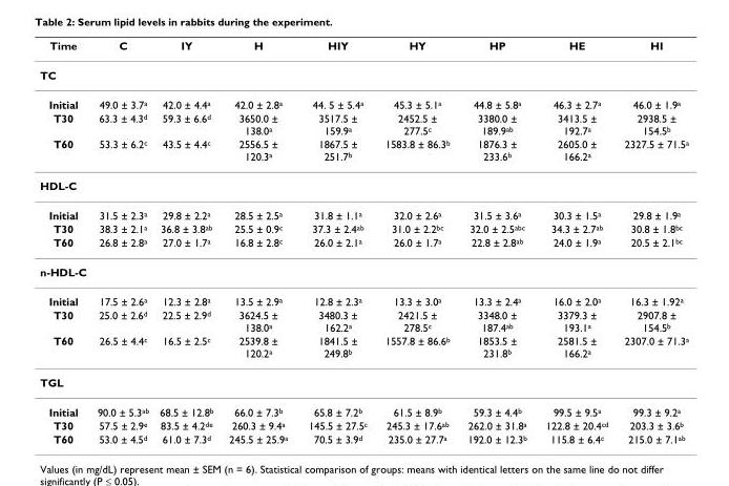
<table><thead><tr><td>Time</td><td>C</td><td>IY</td><td>H</td><td>HIY</td><td>HY</td><td>HP</td><td>HE</td><td>HI</td></tr></thead><tbody><tr><td colspan="9">TC</td></tr><tr><td>Initial</td><td>49.0 ± 3.7<sup>a</sup></td><td>42.0 ± 4.4<sup>a</sup></td><td>42.0 ± 2.8<sup>a</sup></td><td>44. 5 ± 5.4<sup>a</sup></td><td>45.3 ± 5.1<sup>a</sup></td><td>44.8 ± 5.8<sup>a</sup></td><td>46.3 ± 2.7<sup>a</sup></td><td>46.0 ± 1.9<sup>a</sup></td></tr><tr><td>T30</td><td>63.3 ± 4.3<sup>d</sup></td><td>59.3 ± 6.6<sup>d</sup></td><td>3650.0 ± 138.0<sup>a</sup></td><td>3517.5 ± 159.9<sup>a</sup></td><td>2452.5 ± 277.5<sup>c</sup></td><td>3380.0 ± 189.9<sup>ab</sup></td><td>3413.5 ± 192.7<sup>a</sup></td><td>2938.5 ± 154.5<sup>b</sup></td></tr><tr><td>T60</td><td>53.3 ± 6.2<sup>c</sup></td><td>43.5 ± 4.4<sup>c</sup></td><td>2556.5 ± 120.3<sup>a</sup></td><td>1867.5 ± 251.7<sup>b</sup></td><td>1583.8 ± 86.3<sup>b</sup></td><td>1876.3 ± 233.6<sup>b</sup></td><td>2605.0 ± 166.2<sup>a</sup></td><td>2327.5 ± 71.5<sup>a</sup></td></tr><tr><td colspan="9">HDL-C</td></tr><tr><td>Initial</td><td>31.5 ± 2.3<sup>a</sup></td><td>29.8 ± 2.2<sup>a</sup></td><td>28.5 ± 2.5<sup>a</sup></td><td>31.8 ± 1.1<sup>a</sup></td><td>32.0 ± 2.6<sup>a</sup></td><td>31.5 ± 3.6<sup>a</sup></td><td>30.3 ± 1.5<sup>a</sup></td><td>29.8 ± 1.9<sup>a</sup></td></tr><tr><td>T30</td><td>38.3 ± 2.1<sup>a</sup></td><td>36.8 ± 3.8<sup>ab</sup></td><td>25.5 ± 0.9<sup>c</sup></td><td>37.3 ± 2.4<sup>ab</sup></td><td>31.0 ± 2.2<sup>bc</sup></td><td>32.0 ± 2.5<sup>abc</sup></td><td>34.3 ± 2.7<sup>ab</sup></td><td>30.8 ± 1.8<sup>bc</sup></td></tr><tr><td>T60</td><td>26.8 ± 2.8<sup>a</sup></td><td>27.0 ± 1.7<sup>a</sup></td><td>16.8 ± 2.8<sup>c</sup></td><td>26.0 ± 2.1<sup>a</sup></td><td>26.0 ± 1.7<sup>a</sup></td><td>22.8 ± 2.8<sup>ab</sup></td><td>24.0 ± 1.9<sup>a</sup></td><td>20.5 ± 2.1<sup>bc</sup></td></tr><tr><td colspan="9">n-HDL-C</td></tr><tr><td>Initial</td><td>17.5 ± 2.6<sup>a</sup></td><td>12.3 ± 2.8<sup>a</sup></td><td>13.5 ± 2.9<sup>a</sup></td><td>12.8 ± 2.3<sup>a</sup></td><td>13.3 ± 3.0<sup>a</sup></td><td>13.3 ± 2.4<sup>a</sup></td><td>16.0 ± 2.0<sup>a</sup></td><td>16.3 ± 1.92<sup>a</sup></td></tr><tr><td>T30</td><td>25.0 ± 2.6<sup>d</sup></td><td>22.5 ± 2.9<sup>d</sup></td><td>3624.5 ± 138.0<sup>a</sup></td><td>3480.3 ± 162.2<sup>a</sup></td><td>2421.5 ± 278.5<sup>c</sup></td><td>3348.0 ± 187.4<sup>ab</sup></td><td>3379.3 ± 193.1<sup>a</sup></td><td>2907.8 ± 154.5<sup>b</sup></td></tr><tr><td>T60</td><td>26.5 ± 4.4<sup>c</sup></td><td>16.5 ± 2.5<sup>c</sup></td><td>2539.8 ± 120.2<sup>a</sup></td><td>1841.5 ± 249.8<sup>b</sup></td><td>1557.8 ± 86.6<sup>b</sup></td><td>1853.5 ± 231.8<sup>b</sup></td><td>2581.5 ± 166.2<sup>a</sup></td><td>2307.0 ± 71.3<sup>a</sup></td></tr><tr><td colspan="9">TGL</td></tr><tr><td>Initial</td><td>90.0 ± 5.3<sup>ab</sup></td><td>68.5 ± 12.8<sup>b</sup></td><td>66.0 ± 7.3<sup>b</sup></td><td>65.8 ± 7.2<sup>b</sup></td><td>61.5 ± 8.9<sup>b</sup></td><td>59.3 ± 4.4<sup>b</sup></td><td>99.5 ± 9.5<sup>a</sup></td><td>99.3 ± 9.2<sup>a</sup></td></tr><tr><td>T30</td><td>57.5 ± 2.9<sup>e</sup></td><td>83.5 ± 4.2<sup>de</sup></td><td>260.3 ± 9.4<sup>a</sup></td><td>145.5 ± 27.5<sup>c</sup></td><td>245.3 ± 17.6<sup>ab</sup></td><td>262.0 ± 31.8<sup>a</sup></td><td>122.8 ± 20.4<sup>cd</sup></td><td>203.3 ± 3.6<sup>b</sup></td></tr><tr><td>T60</td><td>53.0 ± 4.5<sup>d</sup></td><td>61.0 ± 7.3<sup>d</sup></td><td>245.5 ± 25.9<sup>a</sup></td><td>70.5 ± 3.9<sup>d</sup></td><td>235.0 ± 27.7<sup>a</sup></td><td>192.0 ± 12.3<sup>b</sup></td><td>115.8 ± 6.4<sup>c</sup></td><td>215.0 ± 7.1<sup>ab</sup></td></tr></tbody></table>